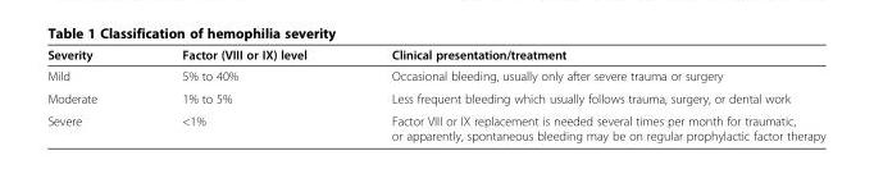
<table><thead><tr><td>Severity</td><td>Factor (VIII or IX) level</td><td>Clinical presentation/treatment</td></tr></thead><tbody><tr><td>Mild</td><td>5% to 40%</td><td>Occasional bleeding, usually only after severe trauma or surgery</td></tr><tr><td>Moderate</td><td>1% to 5%</td><td>Less frequent bleeding which usually follows trauma, surgery, or dental work</td></tr><tr><td>Severe</td><td>&lt;1%</td><td>Factor VIII or IX replacement is needed several times per month for traumatic, or apparently, spontaneous bleeding may be on regular prophylactic factor therapy</td></tr></tbody></table>